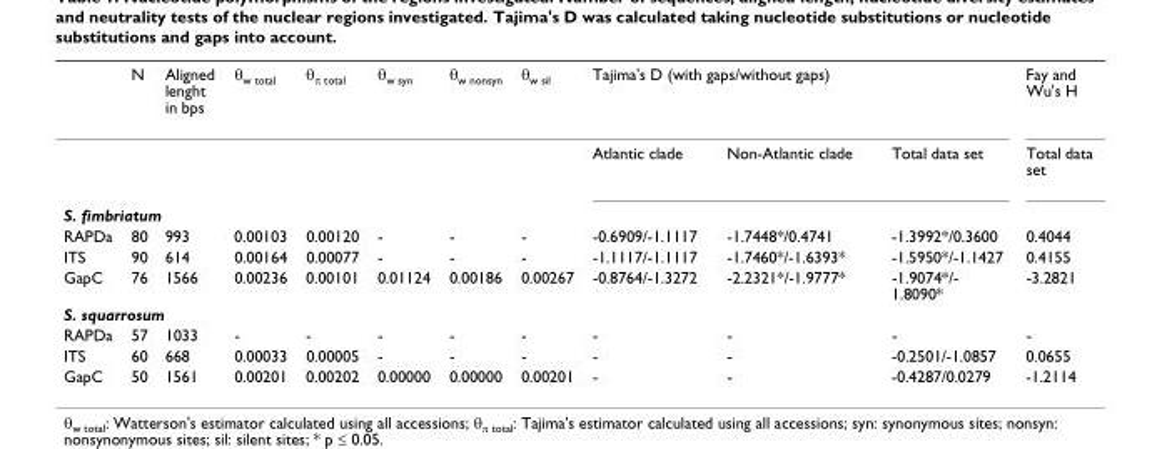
<table><thead><tr><td rowspan="2"></td><td rowspan="2">N</td><td rowspan="2">Aligned lenght in bps</td><td rowspan="2">θ<sub>w total</sub></td><td rowspan="2">θ<sub>π total</sub></td><td rowspan="2">θ<sub>w syn</sub></td><td rowspan="2">θ<sub>w nonsyn</sub></td><td rowspan="2">θ<sub>w sil</sub></td><td colspan="3">Tajima&#x27;s D (with gaps/without gaps)</td><td rowspan="2">Fay and Wu&#x27;s H Total data set</td></tr><tr><td>Atlantic clade</td><td>Non-Atlantic clade</td><td>Total data set</td></tr></thead><tbody><tr><td colspan="12">S. fimbriatum</td></tr><tr><td>RAPDa</td><td>80</td><td>993</td><td>0.00103</td><td>0.00120</td><td>-</td><td>-</td><td>-</td><td>-0.6909/-1.1117</td><td>-1.7448*/0.4741</td><td>-1.3992*/0.3600</td><td>0.4044</td></tr><tr><td>ITS</td><td>90</td><td>614</td><td>0.00164</td><td>0.00077</td><td>-</td><td>-</td><td>-</td><td>-1.1117/-1.1117</td><td>-1.7460*/-1.6393*</td><td>-1.5950*/-1.1427</td><td>0.4155</td></tr><tr><td>GapC</td><td>76</td><td>1566</td><td>0.00236</td><td>0.00101</td><td>0.01124</td><td>0.00186</td><td>0.00267</td><td>-0.8764/-1.3272</td><td>-2.2321*/-1.9777*</td><td>-1.9074*/- 1.8090*</td><td>-3.2821</td></tr><tr><td colspan="12">S. squarrosum</td></tr><tr><td>RAPDa</td><td>57</td><td>1033</td><td>-</td><td>-</td><td>-</td><td>-</td><td>-</td><td>-</td><td>-</td><td>-</td><td>-</td></tr><tr><td>ITS</td><td>60</td><td>668</td><td>0.00033</td><td>0.00005</td><td>-</td><td>-</td><td>-</td><td>-</td><td>-</td><td>-0.2501/-1.0857</td><td>0.0655</td></tr><tr><td>GapC</td><td>50</td><td>1561</td><td>0.00201</td><td>0.00202</td><td>0.00000</td><td>0.00000</td><td>0.00201</td><td>-</td><td>-</td><td>-0.4287/0.0279</td><td>-1.2114</td></tr></tbody></table>